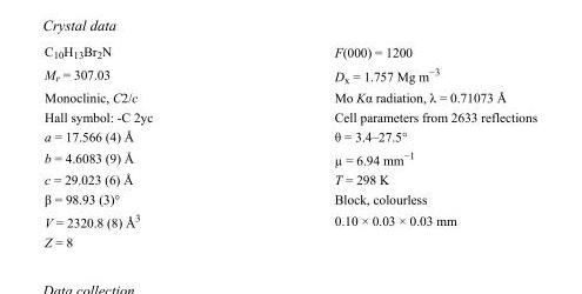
<table><tbody><tr><td>C<sub>10</sub>H<sub>13</sub>Br<sub>2</sub>N</td><td>F(000) = 1200</td></tr><tr><td>M<sub>r</sub> = 307.03</td><td>D<sub>x</sub> = 1.757 Mg m<sup>−3</sup></td></tr><tr><td>Monoclinic, C2/c</td><td>Mo Kα radiation, λ = 0.71073 Å</td></tr><tr><td>Hall symbol: -C 2yc</td><td>Cell parameters from 2633 reflections</td></tr><tr><td>a = 17.566 (4) Å</td><td>θ = 3.4–27.5°</td></tr><tr><td>b = 4.6083 (9) Å</td><td>µ = 6.94 mm<sup>−1</sup></td></tr><tr><td>c = 29.023 (6) Å</td><td>T = 298 K</td></tr><tr><td>β = 98.93 (3)°</td><td>Block, colourless</td></tr><tr><td>V = 2320.8 (8) Å<sup>3</sup></td><td>0.10 × 0.03 × 0.03 mm</td></tr><tr><td>Z = 8</td><td></td></tr></tbody></table>